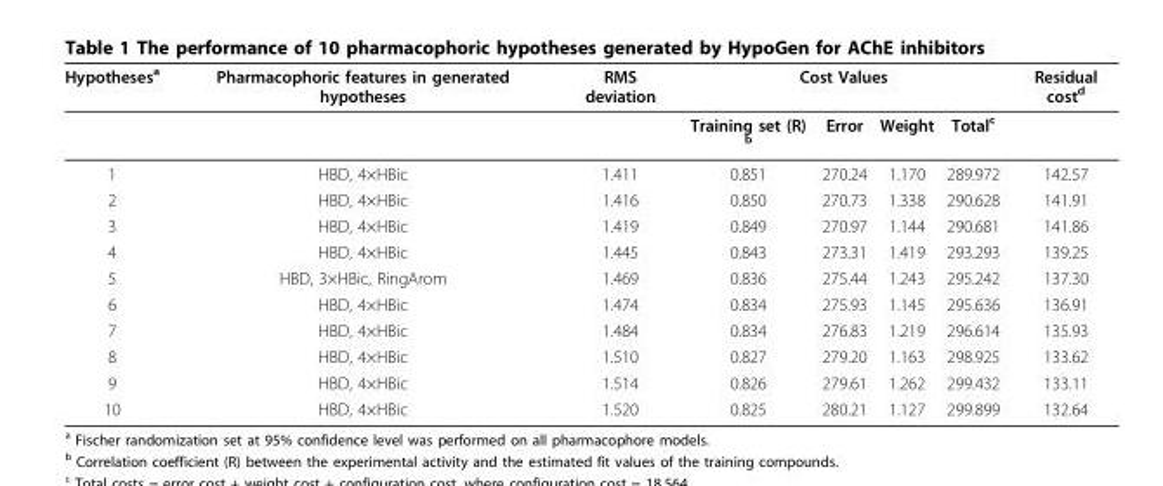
<table><thead><tr><td rowspan="2">Hypotheses<sup>a</sup></td><td rowspan="2">Pharmacophoric features in generated hypotheses</td><td rowspan="2">RMS deviation</td><td colspan="4">Cost Values</td><td rowspan="2">Residual cost<sup>d</sup></td></tr><tr><td>Training set (R) <sup>b</sup></td><td>Error</td><td>Weight</td><td>Total<sup>c</sup></td></tr></thead><tbody><tr><td>1</td><td>HBD, 4×HBic</td><td>1.411</td><td>0.851</td><td>270.24</td><td>1.170</td><td>289.972</td><td>142.57</td></tr><tr><td>2</td><td>HBD, 4×HBic</td><td>1.416</td><td>0.850</td><td>270.73</td><td>1.338</td><td>290.628</td><td>141.91</td></tr><tr><td>3</td><td>HBD, 4×HBic</td><td>1.419</td><td>0.849</td><td>270.97</td><td>1.144</td><td>290.681</td><td>141.86</td></tr><tr><td>4</td><td>HBD, 4×HBic</td><td>1.445</td><td>0.843</td><td>273.31</td><td>1.419</td><td>293.293</td><td>139.25</td></tr><tr><td>5</td><td>HBD, 3×HBic, RingArom</td><td>1.469</td><td>0.836</td><td>275.44</td><td>1.243</td><td>295.242</td><td>137.30</td></tr><tr><td>6</td><td>HBD, 4×HBic</td><td>1.474</td><td>0.834</td><td>275.93</td><td>1.145</td><td>295.636</td><td>136.91</td></tr><tr><td>7</td><td>HBD, 4×HBic</td><td>1.484</td><td>0.834</td><td>276.83</td><td>1.219</td><td>296.614</td><td>135.93</td></tr><tr><td>8</td><td>HBD, 4×HBic</td><td>1.510</td><td>0.827</td><td>279.20</td><td>1.163</td><td>298.925</td><td>133.62</td></tr><tr><td>9</td><td>HBD, 4×HBic</td><td>1.514</td><td>0.826</td><td>279.61</td><td>1.262</td><td>299.432</td><td>133.11</td></tr><tr><td>10</td><td>HBD, 4×HBic</td><td>1.520</td><td>0.825</td><td>280.21</td><td>1.127</td><td>299.899</td><td>132.64</td></tr></tbody></table>